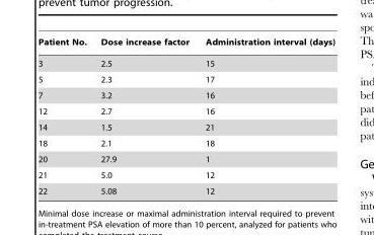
<table><thead><tr><td>Patient No.</td><td>Dose increase factor</td><td>Administration interval (days)</td></tr></thead><tbody><tr><td>3</td><td>2.5</td><td>15</td></tr><tr><td>5</td><td>2.3</td><td>17</td></tr><tr><td>7</td><td>3.2</td><td>16</td></tr><tr><td>12</td><td>2.7</td><td>16</td></tr><tr><td>14</td><td>1.5</td><td>21</td></tr><tr><td>18</td><td>2.1</td><td>18</td></tr><tr><td>20</td><td>27.9</td><td>1</td></tr><tr><td>21</td><td>5.0</td><td>12</td></tr><tr><td>22</td><td>5.08</td><td>12</td></tr></tbody></table>